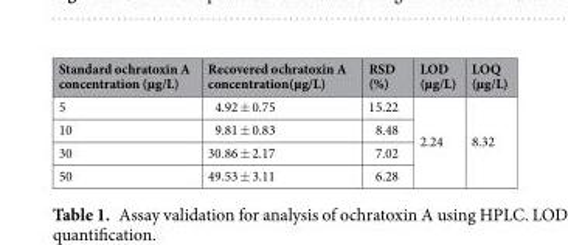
<table><thead><tr><td>Standard ochratoxin A concentration (µg/L)</td><td>Recovered ochratoxin A concentration(µg/L)</td><td>RSD (%)</td><td>LOD (µg/L)</td><td>LOQ (µg/L)</td></tr></thead><tbody><tr><td>5</td><td>4.92 ± 0.75</td><td>15.22</td><td rowspan="4">2.24</td><td rowspan="4">8.32</td></tr><tr><td>10</td><td>9.81 ± 0.83</td><td>8.48</td></tr><tr><td>30</td><td>30.86 ± 2.17</td><td>7.02</td></tr><tr><td>50</td><td>49.53 ± 3.11</td><td>6.28</td></tr></tbody></table>